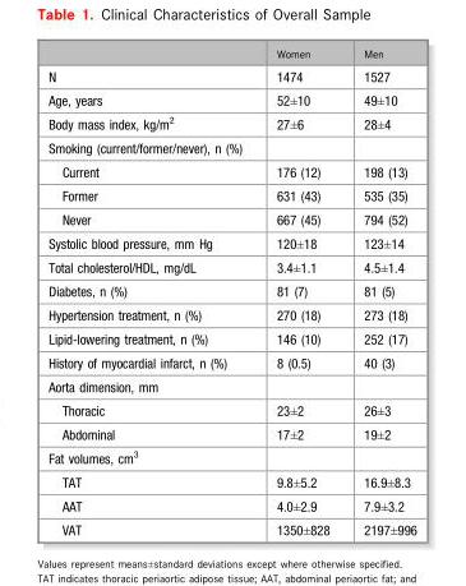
<table><thead><tr><td></td><td>Women</td><td>Men</td></tr></thead><tbody><tr><td>N</td><td>1474</td><td>1527</td></tr><tr><td>Age, years</td><td>52±10</td><td>49±10</td></tr><tr><td>Body mass index, kg/m<sup>2</sup></td><td>27±6</td><td>28±4</td></tr><tr><td colspan="3">Smoking (current/former/never), n (%)</td></tr><tr><td>Current</td><td>176 (12)</td><td>198 (13)</td></tr><tr><td>Former</td><td>631 (43)</td><td>535 (35)</td></tr><tr><td>Never</td><td>667 (45)</td><td>794 (52)</td></tr><tr><td>Systolic blood pressure, mm Hg</td><td>120±18</td><td>123±14</td></tr><tr><td>Total cholesterol/HDL, mg/dL</td><td>3.4±1.1</td><td>4.5±1.4</td></tr><tr><td>Diabetes, n (%)</td><td>81 (7)</td><td>81 (5)</td></tr><tr><td>Hypertension treatment, n (%)</td><td>270 (18)</td><td>273 (18)</td></tr><tr><td>Lipid-lowering treatment, n (%)</td><td>146 (10)</td><td>252 (17)</td></tr><tr><td>History of myocardial infarct, n (%)</td><td>8 (0.5)</td><td>40 (3)</td></tr><tr><td colspan="3">Aorta dimension, mm</td></tr><tr><td>Thoracic</td><td>23±2</td><td>26±3</td></tr><tr><td>Abdominal</td><td>17±2</td><td>19±2</td></tr><tr><td colspan="3">Fat volumes, cm<sup>3</sup></td></tr><tr><td>TAT</td><td>9.8±5.2</td><td>16.9±8.3</td></tr><tr><td>AAT</td><td>4.0±2.9</td><td>7.9±3.2</td></tr><tr><td>VAT</td><td>1350±828</td><td>2197±996</td></tr></tbody></table>